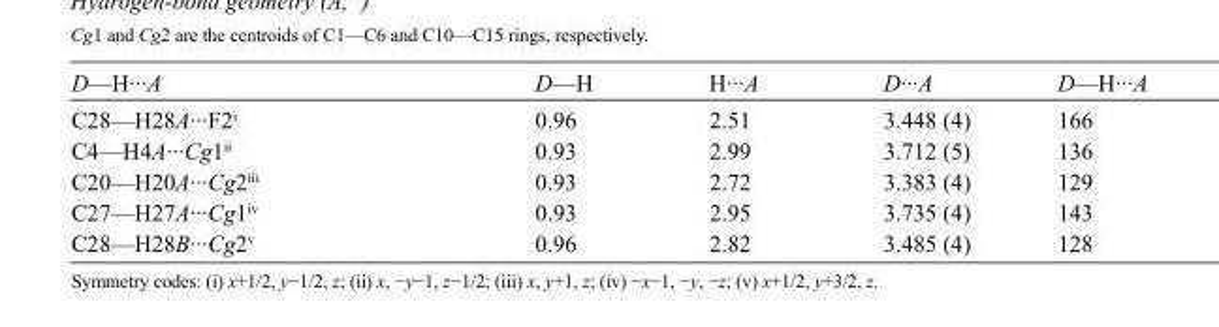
<table><tbody><tr><td>D—H···A</td><td>D—H</td><td>H···A</td><td>D···A</td><td>D—H···A</td></tr><tr><td>C28—H28A···F2<sup>i</sup></td><td>0.96</td><td>2.51</td><td>3.448 (4)</td><td>166</td></tr><tr><td>C4—H4A···Cg1<sup>ii</sup></td><td>0.93</td><td>2.99</td><td>3.712 (5)</td><td>136</td></tr><tr><td>C20—H20A···Cg2<sup>iii</sup></td><td>0.93</td><td>2.72</td><td>3.383 (4)</td><td>129</td></tr><tr><td>C27—H27A···Cg1<sup>iv</sup></td><td>0.93</td><td>2.95</td><td>3.735 (4)</td><td>143</td></tr><tr><td>C28—H28B···Cg2<sup>v</sup></td><td>0.96</td><td>2.82</td><td>3.485 (4)</td><td>128</td></tr></tbody></table>